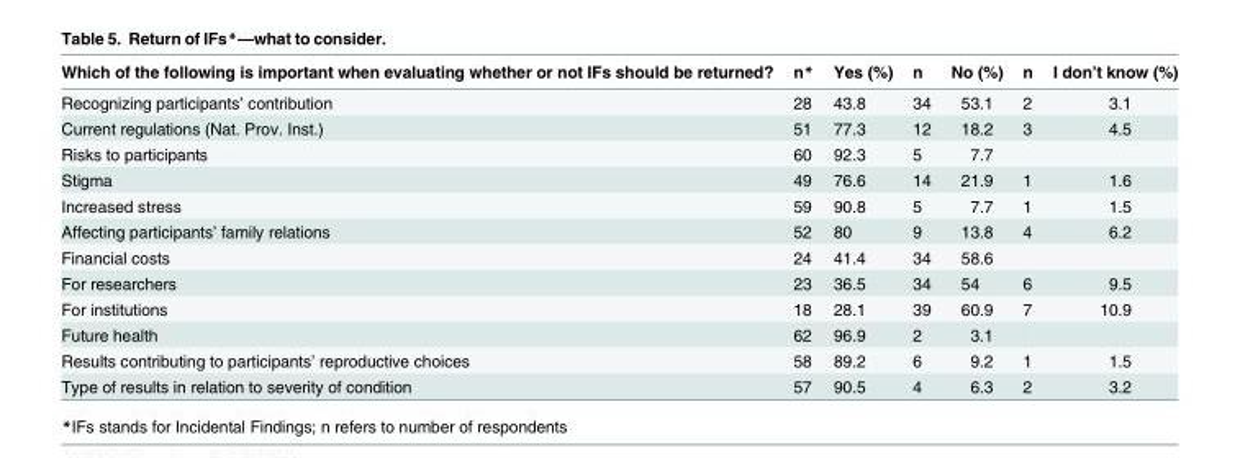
<table><thead><tr><td>Which of the following is important when evaluating whether or not IFs should be returned?</td><td>n*</td><td>Yes (%)</td><td>n</td><td>No (%)</td><td>n</td><td>I don’t know (%)</td></tr></thead><tbody><tr><td>Recognizing participants’ contribution</td><td>28</td><td>43.8</td><td>34</td><td>53.1</td><td>2</td><td>3.1</td></tr><tr><td>Current regulations (Nat. Prov. Inst.)</td><td>51</td><td>77.3</td><td>12</td><td>18.2</td><td>3</td><td>4.5</td></tr><tr><td>Risks to participants</td><td>60</td><td>92.3</td><td>5</td><td>7.7</td><td></td><td></td></tr><tr><td>Stigma</td><td>49</td><td>76.6</td><td>14</td><td>21.9</td><td>1</td><td>1.6</td></tr><tr><td>Increased stress</td><td>59</td><td>90.8</td><td>5</td><td>7.7</td><td>1</td><td>1.5</td></tr><tr><td>Affecting participants’ family relations</td><td>52</td><td>80</td><td>9</td><td>13.8</td><td>4</td><td>6.2</td></tr><tr><td>Financial costs</td><td>24</td><td>41.4</td><td>34</td><td>58.6</td><td></td><td></td></tr><tr><td>For researchers</td><td>23</td><td>36.5</td><td>34</td><td>54</td><td>6</td><td>9.5</td></tr><tr><td>For institutions</td><td>18</td><td>28.1</td><td>39</td><td>60.9</td><td>7</td><td>10.9</td></tr><tr><td>Future health</td><td>62</td><td>96.9</td><td>2</td><td>3.1</td><td></td><td></td></tr><tr><td>Results contributing to participants’ reproductive choices</td><td>58</td><td>89.2</td><td>6</td><td>9.2</td><td>1</td><td>1.5</td></tr><tr><td>Type of results in relation to severity of condition</td><td>57</td><td>90.5</td><td>4</td><td>6.3</td><td>2</td><td>3.2</td></tr></tbody></table>